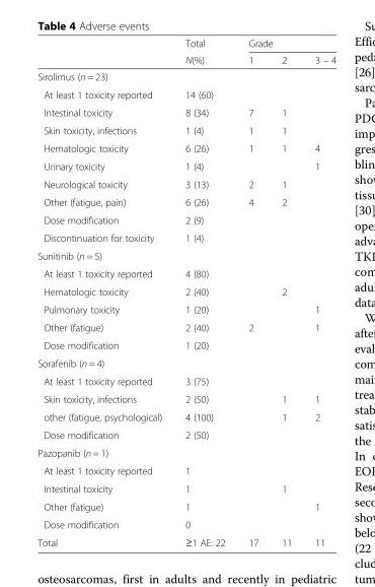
<table><thead><tr><td rowspan="2"></td><td rowspan="2">Total N(%)</td><td colspan="3">Grade</td></tr><tr><td>1</td><td>2</td><td>3 – 4</td></tr></thead><tbody><tr><td colspan="5">Sirolimus (n = 23)</td></tr><tr><td>At least 1 toxicity reported</td><td>14 (60)</td><td></td><td></td><td></td></tr><tr><td>Intestinal toxicity</td><td>8 (34)</td><td>7</td><td>1</td><td></td></tr><tr><td>Skin toxicity, infections</td><td>1 (4)</td><td>1</td><td>1</td><td></td></tr><tr><td>Hematologic toxicity</td><td>6 (26)</td><td>1</td><td>1</td><td>4</td></tr><tr><td>Urinary toxicity</td><td>1 (4)</td><td></td><td></td><td>1</td></tr><tr><td>Neurological toxicity</td><td>3 (13)</td><td>2</td><td>1</td><td></td></tr><tr><td>Other (fatigue, pain)</td><td>6 (26)</td><td>4</td><td>2</td><td></td></tr><tr><td>Dose modification</td><td>2 (9)</td><td></td><td></td><td></td></tr><tr><td>Discontinuation for toxicity</td><td>1 (4)</td><td></td><td></td><td></td></tr><tr><td colspan="5">Sunitinib (n = 5)</td></tr><tr><td>At least 1 toxicity reported</td><td>4 (80)</td><td></td><td></td><td></td></tr><tr><td>Hematologic toxicity</td><td>2 (40)</td><td></td><td>2</td><td></td></tr><tr><td>Pulmonary toxicity</td><td>1 (20)</td><td></td><td></td><td>1</td></tr><tr><td>Other (fatigue)</td><td>2 (40)</td><td>2</td><td></td><td>1</td></tr><tr><td>Dose modification</td><td>1 (20)</td><td></td><td></td><td></td></tr><tr><td colspan="5">Sorafenib (n = 4)</td></tr><tr><td>At least 1 toxicity reported</td><td>3 (75)</td><td></td><td></td><td></td></tr><tr><td>Skin toxicity, infections</td><td>2 (50)</td><td></td><td>1</td><td>1</td></tr><tr><td>other (fatigue, psychological)</td><td>4 (100)</td><td></td><td>1</td><td>2</td></tr><tr><td>Dose modification</td><td>2 (50)</td><td></td><td></td><td></td></tr><tr><td colspan="5">Pazopanib (n = 1)</td></tr><tr><td>At least 1 toxicity reported</td><td>1</td><td></td><td></td><td></td></tr><tr><td>Intestinal toxicity</td><td>1</td><td></td><td>1</td><td></td></tr><tr><td>Other (fatigue)</td><td>1</td><td></td><td></td><td>1</td></tr><tr><td>Dose modification</td><td>0</td><td></td><td></td><td></td></tr><tr><td>Total</td><td>≥1 AE: 22</td><td>17</td><td>11</td><td>11</td></tr></tbody></table>